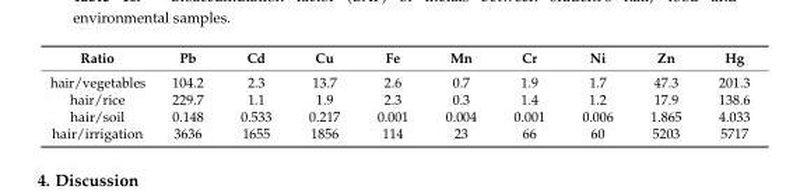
<table><thead><tr><td>Ratio</td><td>Pb</td><td>Cd</td><td>Cu</td><td>Fe</td><td>Mn</td><td>Cr</td><td>Ni</td><td>Zn</td><td>Hg</td></tr></thead><tbody><tr><td>hair/vegetables</td><td>104.2</td><td>2.3</td><td>13.7</td><td>2.6</td><td>0.7</td><td>1.9</td><td>1.7</td><td>47.3</td><td>201.3</td></tr><tr><td>hair/rice</td><td>229.7</td><td>1.1</td><td>1.9</td><td>2.3</td><td>0.3</td><td>1.4</td><td>1.2</td><td>17.9</td><td>138.6</td></tr><tr><td>hair/soil</td><td>0.148</td><td>0.533</td><td>0.217</td><td>0.001</td><td>0.004</td><td>0.001</td><td>0.006</td><td>1.865</td><td>4.033</td></tr><tr><td>hair/irrigation</td><td>3636</td><td>1655</td><td>1856</td><td>114</td><td>23</td><td>66</td><td>60</td><td>5203</td><td>5717</td></tr></tbody></table>